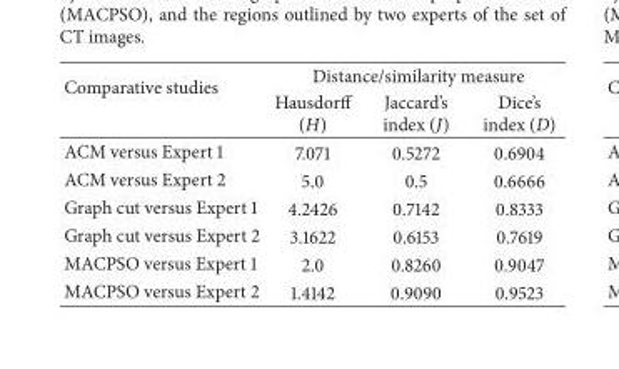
<table><thead><tr><td rowspan="2">Comparative studies</td><td colspan="3">Distance/similarity measure</td></tr><tr><td>Hausdorff (H)</td><td>Jaccard’s index (J)</td><td>Dice’s index (D)</td></tr></thead><tbody><tr><td>ACM versus Expert 1</td><td>7.071</td><td>0.5272</td><td>0.6904</td></tr><tr><td>ACM versus Expert 2</td><td>5.0</td><td>0.5</td><td>0.6666</td></tr><tr><td>Graph cut versus Expert 1</td><td>4.2426</td><td>0.7142</td><td>0.8333</td></tr><tr><td>Graph cut versus Expert 2</td><td>3.1622</td><td>0.6153</td><td>0.7619</td></tr><tr><td>MACPSO versus Expert 1</td><td>2.0</td><td>0.8260</td><td>0.9047</td></tr><tr><td>MACPSO versus Expert 2</td><td>1.4142</td><td>0.9090</td><td>0.9523</td></tr></tbody></table>